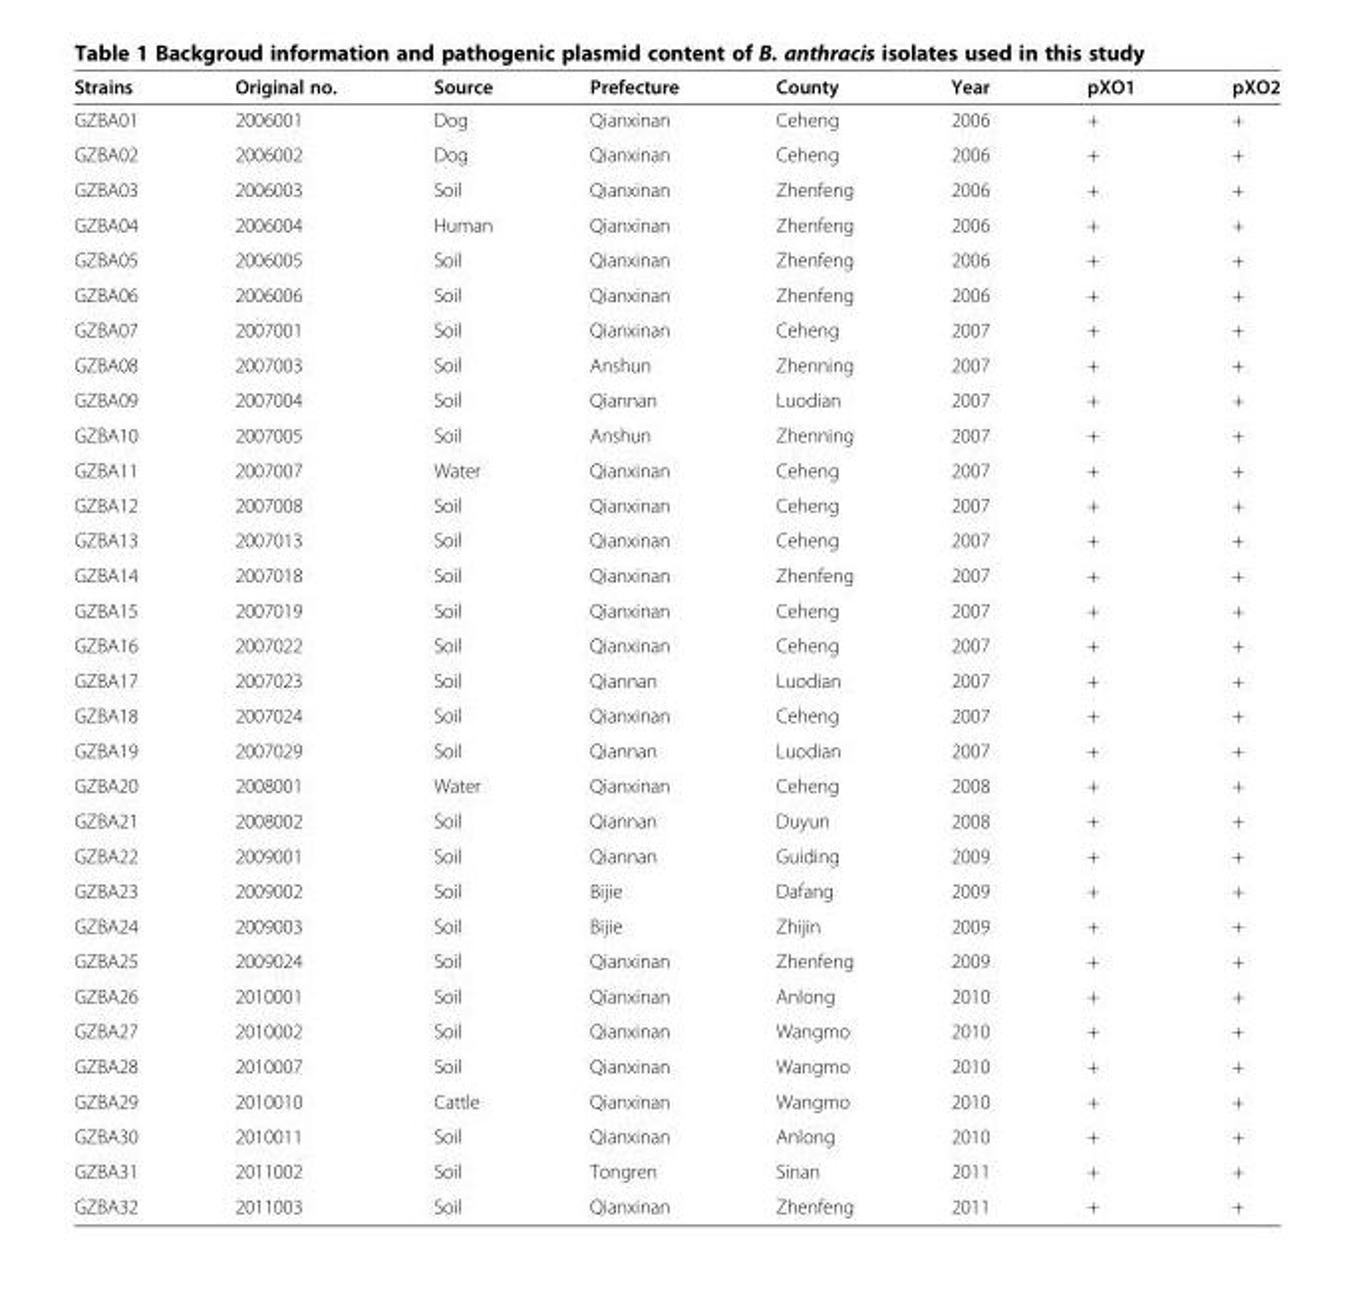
<table><thead><tr><td>Strains</td><td>Original no.</td><td>Source</td><td>Prefecture</td><td>County</td><td>Year</td><td>pXO1</td><td>pXO2</td></tr></thead><tbody><tr><td>GZBA01</td><td>2006001</td><td>Dog</td><td>Qianxinan</td><td>Ceheng</td><td>2006</td><td>+</td><td>+</td></tr><tr><td>GZBA02</td><td>2006002</td><td>Dog</td><td>Qianxinan</td><td>Ceheng</td><td>2006</td><td>+</td><td>+</td></tr><tr><td>GZBA03</td><td>2006003</td><td>Soil</td><td>Qianxinan</td><td>Zhenfeng</td><td>2006</td><td>+</td><td>+</td></tr><tr><td>GZBA04</td><td>2006004</td><td>Human</td><td>Qianxinan</td><td>Zhenfeng</td><td>2006</td><td>+</td><td>+</td></tr><tr><td>GZBA05</td><td>2006005</td><td>Soil</td><td>Qianxinan</td><td>Zhenfeng</td><td>2006</td><td>+</td><td>+</td></tr><tr><td>GZBA06</td><td>2006006</td><td>Soil</td><td>Qianxinan</td><td>Zhenfeng</td><td>2006</td><td>+</td><td>+</td></tr><tr><td>GZBA07</td><td>2007001</td><td>Soil</td><td>Qianxinan</td><td>Ceheng</td><td>2007</td><td>+</td><td>+</td></tr><tr><td>GZBA08</td><td>2007003</td><td>Soil</td><td>Anshun</td><td>Zhenning</td><td>2007</td><td>+</td><td>+</td></tr><tr><td>GZBA09</td><td>2007004</td><td>Soil</td><td>Qiannan</td><td>Luodian</td><td>2007</td><td>+</td><td>+</td></tr><tr><td>GZBA10</td><td>2007005</td><td>Soil</td><td>Anshun</td><td>Zhenning</td><td>2007</td><td>+</td><td>+</td></tr><tr><td>GZBA11</td><td>2007007</td><td>Water</td><td>Qianxinan</td><td>Ceheng</td><td>2007</td><td>+</td><td>+</td></tr><tr><td>GZBA12</td><td>2007008</td><td>Soil</td><td>Qianxinan</td><td>Ceheng</td><td>2007</td><td>+</td><td>+</td></tr><tr><td>GZBA13</td><td>2007013</td><td>Soil</td><td>Qianxinan</td><td>Ceheng</td><td>2007</td><td>+</td><td>+</td></tr><tr><td>GZBA14</td><td>2007018</td><td>Soil</td><td>Qianxinan</td><td>Zhenfeng</td><td>2007</td><td>+</td><td>+</td></tr><tr><td>GZBA15</td><td>2007019</td><td>Soil</td><td>Qianxinan</td><td>Ceheng</td><td>2007</td><td>+</td><td>+</td></tr><tr><td>GZBA16</td><td>2007022</td><td>Soil</td><td>Qianxinan</td><td>Ceheng</td><td>2007</td><td>+</td><td>+</td></tr><tr><td>GZBA17</td><td>2007023</td><td>Soil</td><td>Qiannan</td><td>Luodian</td><td>2007</td><td>+</td><td>+</td></tr><tr><td>GZBA18</td><td>2007024</td><td>Soil</td><td>Qianxinan</td><td>Ceheng</td><td>2007</td><td>+</td><td>+</td></tr><tr><td>GZBA19</td><td>2007029</td><td>Soil</td><td>Qiannan</td><td>Luodian</td><td>2007</td><td>+</td><td>+</td></tr><tr><td>GZBA20</td><td>2008001</td><td>Water</td><td>Qianxinan</td><td>Ceheng</td><td>2008</td><td>+</td><td>+</td></tr><tr><td>GZBA21</td><td>2008002</td><td>Soil</td><td>Qiannan</td><td>Duyun</td><td>2008</td><td>+</td><td>+</td></tr><tr><td>GZBA22</td><td>2009001</td><td>Soil</td><td>Qiannan</td><td>Guiding</td><td>2009</td><td>+</td><td>+</td></tr><tr><td>GZBA23</td><td>2009002</td><td>Soil</td><td>Bijie</td><td>Dafang</td><td>2009</td><td>+</td><td>+</td></tr><tr><td>GZBA24</td><td>2009003</td><td>Soil</td><td>Bijie</td><td>Zhijin</td><td>2009</td><td>+</td><td>+</td></tr><tr><td>GZBA25</td><td>2009024</td><td>Soil</td><td>Qianxinan</td><td>Zhenfeng</td><td>2009</td><td>+</td><td>+</td></tr><tr><td>GZBA26</td><td>2010001</td><td>Soil</td><td>Qianxinan</td><td>Anlong</td><td>2010</td><td>+</td><td>+</td></tr><tr><td>GZBA27</td><td>2010002</td><td>Soil</td><td>Qianxinan</td><td>Wangmo</td><td>2010</td><td>+</td><td>+</td></tr><tr><td>GZBA28</td><td>2010007</td><td>Soil</td><td>Qianxinan</td><td>Wangmo</td><td>2010</td><td>+</td><td>+</td></tr><tr><td>GZBA29</td><td>2010010</td><td>Cattle</td><td>Qianxinan</td><td>Wangmo</td><td>2010</td><td>+</td><td>+</td></tr><tr><td>GZBA30</td><td>2010011</td><td>Soil</td><td>Qianxinan</td><td>Anlong</td><td>2010</td><td>+</td><td>+</td></tr><tr><td>GZBA31</td><td>2011002</td><td>Soil</td><td>Tongren</td><td>Sinan</td><td>2011</td><td>+</td><td>+</td></tr><tr><td>GZBA32</td><td>2011003</td><td>Soil</td><td>Qianxinan</td><td>Zhenfeng</td><td>2011</td><td>+</td><td>+</td></tr></tbody></table>